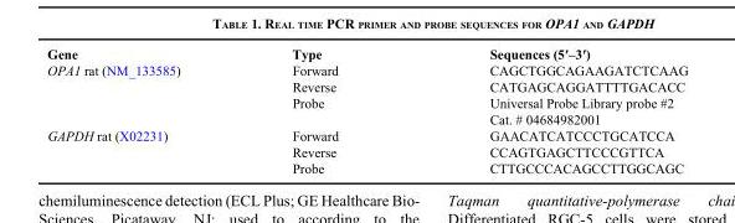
<table><thead><tr><td>Gene</td><td>Type</td><td>Sequences (5′–3′)</td></tr></thead><tbody><tr><td rowspan="4">OPA1 rat (NM_133585)</td><td>Forward</td><td>CAGCTGGCAGAAGATCTCAAG</td></tr><tr><td>Reverse</td><td>CATGAGCAGGATTTTGACACC</td></tr><tr><td>Probe</td><td>Universal Probe Library probe #2</td></tr><tr><td></td><td>Cat. # 04684982001</td></tr><tr><td rowspan="3">GAPDH rat (X02231)</td><td>Forward</td><td>GAACATCATCCCTGCATCCA</td></tr><tr><td>Reverse</td><td>CCAGTGAGCTTCCCGTTCA</td></tr><tr><td>Probe</td><td>CTTGCCCACAGCCTTGGCAGC</td></tr></tbody></table>